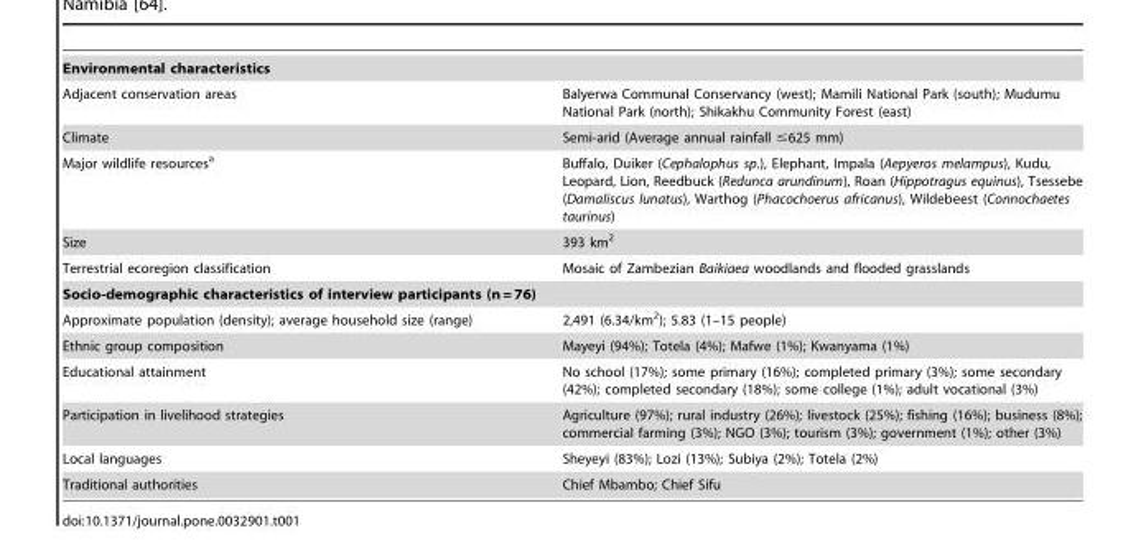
<table><tbody><tr><td colspan="2">Environmental characteristics</td></tr><tr><td>Adjacent conservation areas</td><td>Balyerwa Communal Conservancy (west); Mamili National Park (south); Mudumu National Park (north); Shikakhu Community Forest (east)</td></tr><tr><td>Climate</td><td>Semi-arid (Average annual rainfall ≤625 mm)</td></tr><tr><td>Major wildlife resources<sup>a</sup></td><td>Buffalo, Duiker (Cephalophus sp.), Elephant, Impala (Aepyeros melampus), Kudu, Leopard, Lion, Reedbuck (Redunca arundinum), Roan (Hippotragus equinus), Tsessebe (Damaliscus lunatus), Warthog (Phacochoerus africanus), Wildebeest (Connochaetes taurinus)</td></tr><tr><td>Size</td><td>393 km<sup>2</sup></td></tr><tr><td>Terrestrial ecoregion classification</td><td>Mosaic of Zambezian Baikiaea woodlands and flooded grasslands</td></tr><tr><td colspan="2">Socio-demographic characteristics of interview participants (n = 76)</td></tr><tr><td>Approximate population (density); average household size (range)</td><td>2,491 (6.34/km<sup>2</sup>); 5.83 (1–15 people)</td></tr><tr><td>Ethnic group composition</td><td>Mayeyi (94%); Totela (4%); Mafwe (1%); Kwanyama (1%)</td></tr><tr><td>Educational attainment</td><td>No school (17%); some primary (16%); completed primary (3%); some secondary (42%); completed secondary (18%); some college (1%); adult vocational (3%)</td></tr><tr><td>Participation in livelihood strategies</td><td>Agriculture (97%); rural industry (26%); livestock (25%); fishing (16%); business (8%); commercial farming (3%); NGO (3%); tourism (3%); government (1%); other (3%)</td></tr><tr><td>Local languages</td><td>Sheyeyi (83%); Lozi (13%); Subiya (2%); Totela (2%)</td></tr><tr><td>Traditional authorities</td><td>Chief Mbambo; Chief Sifu</td></tr></tbody></table>